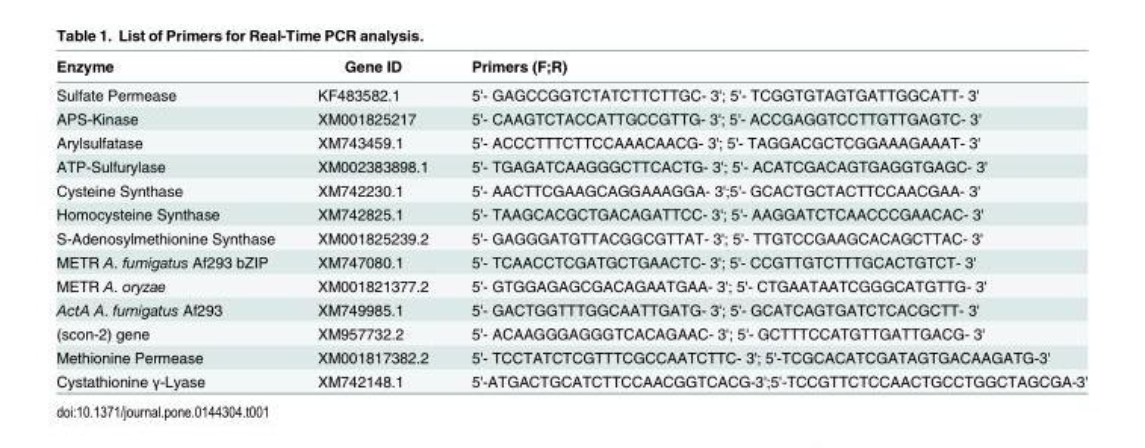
<table><thead><tr><td>Enzyme</td><td>Gene ID</td><td>Primers (F;R)</td></tr></thead><tbody><tr><td>Sulfate Permease</td><td>KF483582.1</td><td>5&#x27;- GAGCCGGTCTATCTTCTTGC- 3&#x27;; 5&#x27;- TCGGTGTAGTGATTGGCATT- 3&#x27;</td></tr><tr><td>APS-Kinase</td><td>XM001825217</td><td>5&#x27;- CAAGTCTACCATTGCCGTTG- 3&#x27;; 5&#x27;- ACCGAGGTCCTTGTTGAGTC- 3&#x27;</td></tr><tr><td>Arylsulfatase</td><td>XM743459.1</td><td>5&#x27;- ACCCTTTCTTCCAAACAACG- 3&#x27;; 5&#x27;- TAGGACGCTCGGAAAGAAAT- 3&#x27;</td></tr><tr><td>ATP-Sulfurylase</td><td>XM002383898.1</td><td>5&#x27;- TGAGATCAAGGGCTTCACTG- 3&#x27;; 5&#x27;- ACATCGACAGTGAGGTGAGC- 3&#x27;</td></tr><tr><td>Cysteine Synthase</td><td>XM742230.1</td><td>5&#x27;- AACTTCGAAGCAGGAAAGGA- 3&#x27;;5&#x27;- GCACTGCTACTTCCAACGAA- 3&#x27;</td></tr><tr><td>Homocysteine Synthase</td><td>XM742825.1</td><td>5&#x27;- TAAGCACGCTGACAGATTCC- 3&#x27;; 5&#x27;- AAGGATCTCAACCCGAACAC- 3&#x27;</td></tr><tr><td>S-Adenosylmethionine Synthase</td><td>XM001825239.2</td><td>5&#x27;- GAGGGATGTTACGGCGTTAT- 3&#x27;; 5&#x27;- TTGTCCGAAGCACAGCTTAC- 3&#x27;</td></tr><tr><td>METR A. fumigatus Af293 bZIP</td><td>XM747080.1</td><td>5&#x27;- TCAACCTCGATGCTGAACTC- 3&#x27;; 5&#x27;- CCGTTGTCTTTGCACTGTCT- 3&#x27;</td></tr><tr><td>METR A. oryzae</td><td>XM001821377.2</td><td>5&#x27;- GTGGAGAGCGACAGAATGAA- 3&#x27;; 5&#x27;- CTGAATAATCGGGCATGTTG- 3&#x27;</td></tr><tr><td>ActA A. fumigatus Af293</td><td>XM749985.1</td><td>5&#x27;- GACTGGTTTGGCAATTGATG- 3&#x27;; 5&#x27;- GCATCAGTGATCTCACGCTT- 3&#x27;</td></tr><tr><td>(scon-2) gene</td><td>XM957732.2</td><td>5&#x27;- ACAAGGGAGGGTCACAGAAC- 3&#x27;; 5&#x27;- GCTTTCCATGTTGATTGACG- 3&#x27;</td></tr><tr><td>Methionine Permease</td><td>XM001817382.2</td><td>5&#x27;- TCCTATCTCGTTTCGCCAATCTTC- 3&#x27;; 5&#x27;-TCGCACATCGATAGTGACAAGATG-3&#x27;</td></tr><tr><td>Cystathionine γ-Lyase</td><td>XM742148.1</td><td>5&#x27;-ATGACTGCATCTTCCAACGGTCACG-3&#x27;;5&#x27;-TCCGTTCTCCAACTGCCTGGCTAGCGA-3&#x27;</td></tr></tbody></table>